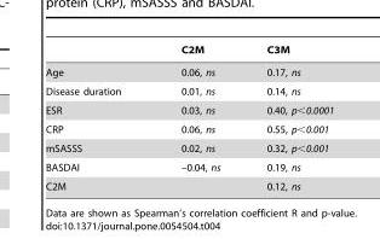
<table><thead><tr><td></td><td>C2M</td><td>C3M</td></tr></thead><tbody><tr><td>Age</td><td>0.06, ns</td><td>0.17, ns</td></tr><tr><td>Disease duration</td><td>0.01, ns</td><td>0.14, ns</td></tr><tr><td>ESR</td><td>0.03, ns</td><td>0.40, p&lt;0.0001</td></tr><tr><td>CRP</td><td>0.06, ns</td><td>0.55, p&lt;0.001</td></tr><tr><td>mSASSS</td><td>0.02, ns</td><td>0.32, p&lt;0.001</td></tr><tr><td>BASDAI</td><td>–0.04, ns</td><td>0.19, ns</td></tr><tr><td>C2M</td><td></td><td>0.12, ns</td></tr></tbody></table>